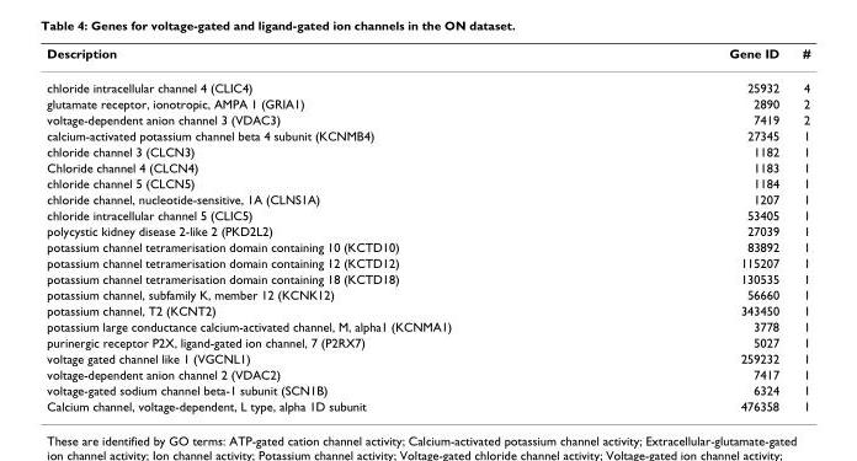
<table><thead><tr><td>Description</td><td>Gene ID</td><td>#</td></tr></thead><tbody><tr><td>chloride intracellular channel 4 (CLIC4)</td><td>25932</td><td>4</td></tr><tr><td>glutamate receptor, ionotropic, AMPA 1 (GRIA1)</td><td>2890</td><td>2</td></tr><tr><td>voltage-dependent anion channel 3 (VDAC3)</td><td>7419</td><td>2</td></tr><tr><td>calcium-activated potassium channel beta 4 subunit (KCNMB4)</td><td>27345</td><td>1</td></tr><tr><td>chloride channel 3 (CLCN3)</td><td>1182</td><td>1</td></tr><tr><td>Chloride channel 4 (CLCN4)</td><td>1183</td><td>1</td></tr><tr><td>chloride channel 5 (CLCN5)</td><td>1184</td><td>1</td></tr><tr><td>chloride channel, nucleotide-sensitive, 1A (CLNS1A)</td><td>1207</td><td>1</td></tr><tr><td>chloride intracellular channel 5 (CLIC5)</td><td>53405</td><td>1</td></tr><tr><td>polycystic kidney disease 2-like 2 (PKD2L2)</td><td>27039</td><td>1</td></tr><tr><td>potassium channel tetramerisation domain containing 10 (KCTD10)</td><td>83892</td><td>1</td></tr><tr><td>potassium channel tetramerisation domain containing 12 (KCTD12)</td><td>115207</td><td>1</td></tr><tr><td>potassium channel tetramerisation domain containing 18 (KCTD18)</td><td>130535</td><td>1</td></tr><tr><td>potassium channel, subfamily K, member 12 (KCNK12)</td><td>56660</td><td>1</td></tr><tr><td>potassium channel, T2 (KCNT2)</td><td>343450</td><td>1</td></tr><tr><td>potassium large conductance calcium-activated channel, M, alpha1 (KCNMA1)</td><td>3778</td><td>1</td></tr><tr><td>purinergic receptor P2X, ligand-gated ion channel, 7 (P2RX7)</td><td>5027</td><td>1</td></tr><tr><td>voltage gated channel like 1 (VGCNL1)</td><td>259232</td><td>1</td></tr><tr><td>voltage-dependent anion channel 2 (VDAC2)</td><td>7417</td><td>1</td></tr><tr><td>voltage-gated sodium channel beta-1 subunit (SCN1B)</td><td>6324</td><td>1</td></tr><tr><td>Calcium channel, voltage-dependent, L type, alpha 1D subunit</td><td>476358</td><td>1</td></tr></tbody></table>